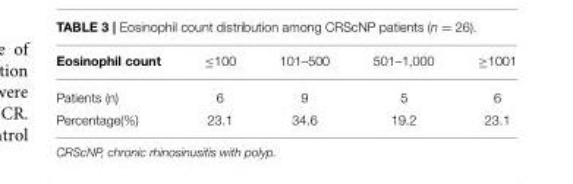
<table><tbody><tr><td>Eosinophil count</td><td>≤100</td><td>101–500</td><td>501–1,000</td><td>≥1001</td></tr><tr><td>Patients (n)</td><td>6</td><td>9</td><td>5</td><td>6</td></tr><tr><td>Percentage(%)</td><td>23.1</td><td>34.6</td><td>19.2</td><td>23.1</td></tr></tbody></table>